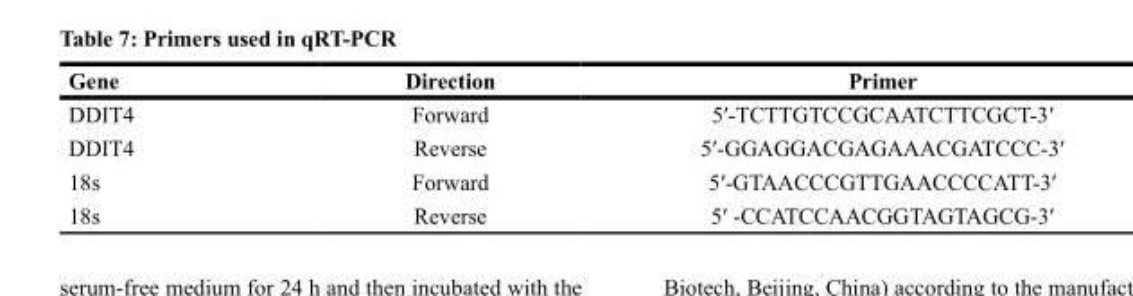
<table><thead><tr><td>Gene</td><td>Direction</td><td>Primer</td></tr></thead><tbody><tr><td>DDIT4</td><td>Forward</td><td>5′-TCTTGTCCGCAATCTTCGCT-3′</td></tr><tr><td>DDIT4</td><td>Reverse</td><td>5′-GGAGGACGAGAAACGATCCC-3′</td></tr><tr><td>18s</td><td>Forward</td><td>5′-GTAACCCGTTGAACCCCATT-3′</td></tr><tr><td>18s</td><td>Reverse</td><td>5′ -CCATCCAACGGTAGTAGCG-3′</td></tr></tbody></table>